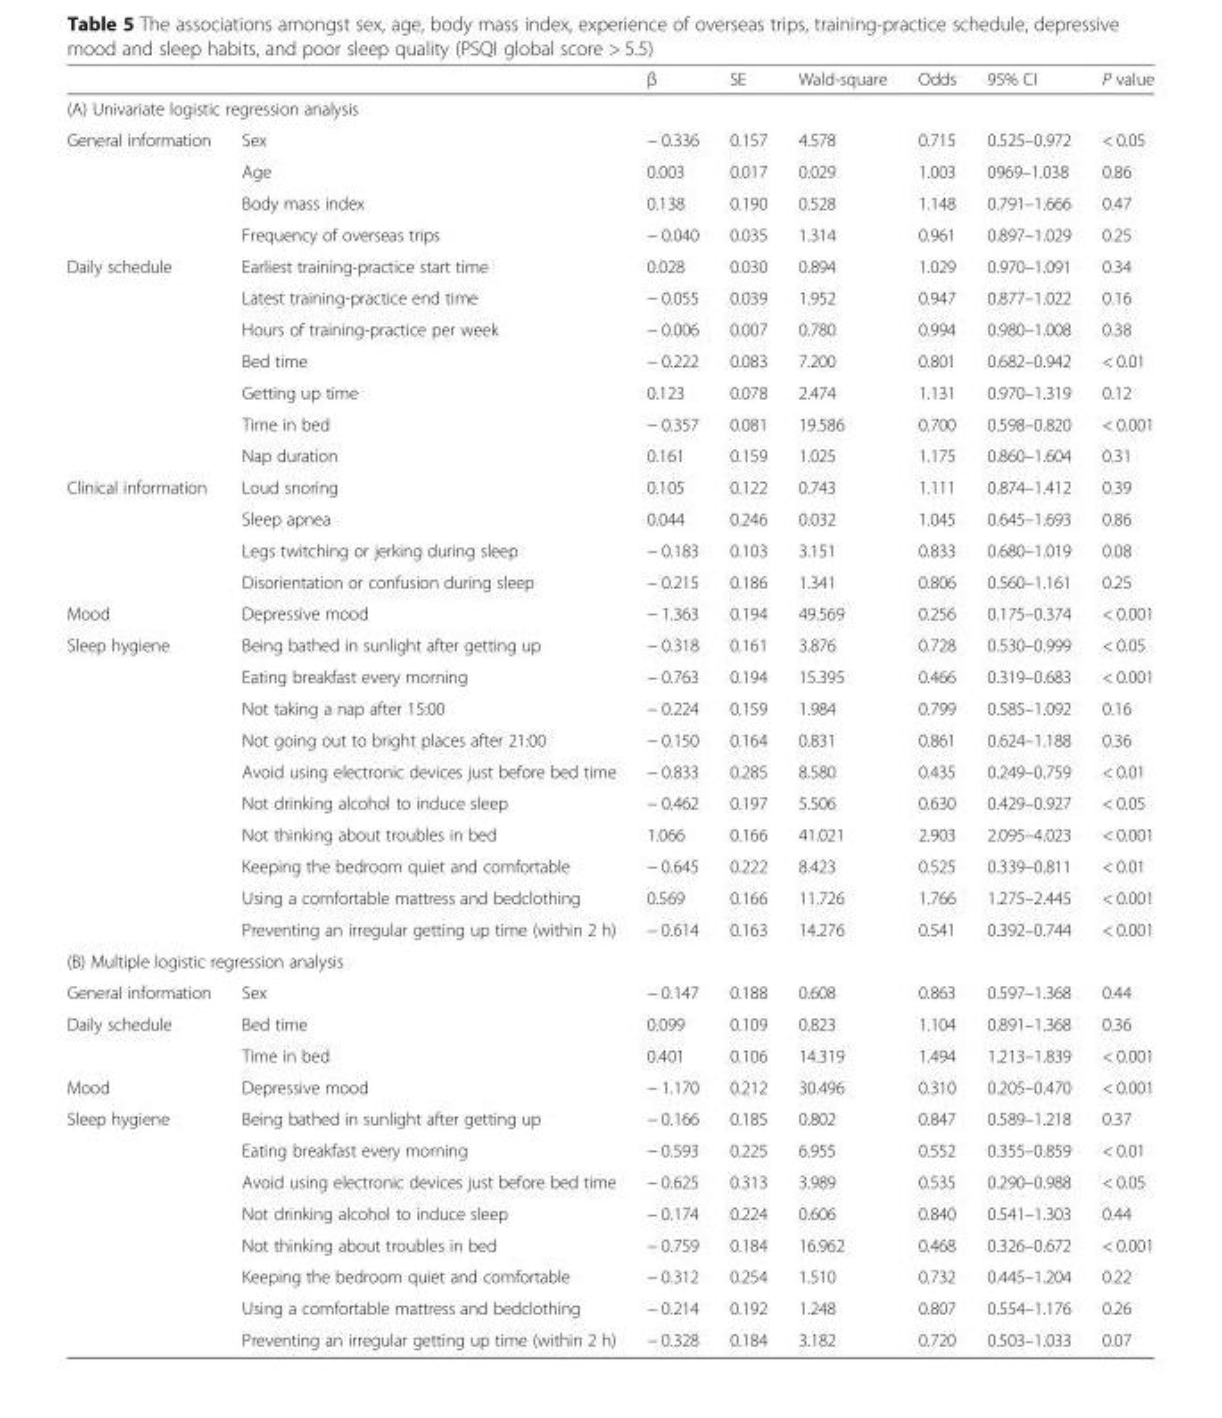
<table><thead><tr><td></td><td></td><td>β</td><td>SE</td><td>Wald-square</td><td>Odds</td><td>95% CI</td><td>P value</td></tr></thead><tbody><tr><td colspan="8">(A) Univariate logistic regression analysis</td></tr><tr><td rowspan="4">General information</td><td>Sex</td><td>− 0.336</td><td>0.157</td><td>4.578</td><td>0.715</td><td>0.525–0.972</td><td>&lt; 0.05</td></tr><tr><td>Age</td><td>0.003</td><td>0.017</td><td>0.029</td><td>1.003</td><td>0969–1.038</td><td>0.86</td></tr><tr><td>Body mass index</td><td>0.138</td><td>0.190</td><td>0.528</td><td>1.148</td><td>0.791–1.666</td><td>0.47</td></tr><tr><td>Frequency of overseas trips</td><td>− 0.040</td><td>0.035</td><td>1.314</td><td>0.961</td><td>0.897–1.029</td><td>0.25</td></tr><tr><td rowspan="7">Daily schedule</td><td>Earliest training-practice start time</td><td>0.028</td><td>0.030</td><td>0.894</td><td>1.029</td><td>0.970–1.091</td><td>0.34</td></tr><tr><td>Latest training-practice end time</td><td>− 0.055</td><td>0.039</td><td>1.952</td><td>0.947</td><td>0.877–1.022</td><td>0.16</td></tr><tr><td>Hours of training-practice per week</td><td>− 0.006</td><td>0.007</td><td>0.780</td><td>0.994</td><td>0.980–1.008</td><td>0.38</td></tr><tr><td>Bed time</td><td>− 0.222</td><td>0.083</td><td>7.200</td><td>0.801</td><td>0.682–0.942</td><td>&lt; 0.01</td></tr><tr><td>Getting up time</td><td>0.123</td><td>0.078</td><td>2.474</td><td>1.131</td><td>0.970–1.319</td><td>0.12</td></tr><tr><td>Time in bed</td><td>− 0.357</td><td>0.081</td><td>19.586</td><td>0.700</td><td>0.598–0.820</td><td>&lt; 0.001</td></tr><tr><td>Nap duration</td><td>0.161</td><td>0.159</td><td>1.025</td><td>1.175</td><td>0.860–1.604</td><td>0.31</td></tr><tr><td rowspan="4">Clinical information</td><td>Loud snoring</td><td>0.105</td><td>0.122</td><td>0.743</td><td>1.111</td><td>0.874–1.412</td><td>0.39</td></tr><tr><td>Sleep apnea</td><td>0.044</td><td>0.246</td><td>0.032</td><td>1.045</td><td>0.645–1.693</td><td>0.86</td></tr><tr><td>Legs twitching or jerking during sleep</td><td>− 0.183</td><td>0.103</td><td>3.151</td><td>0.833</td><td>0.680–1.019</td><td>0.08</td></tr><tr><td>Disorientation or confusion during sleep</td><td>− 0.215</td><td>0.186</td><td>1.341</td><td>0.806</td><td>0.560–1.161</td><td>0.25</td></tr><tr><td>Mood</td><td>Depressive mood</td><td>− 1.363</td><td>0.194</td><td>49.569</td><td>0.256</td><td>0.175–0.374</td><td>&lt; 0.001</td></tr><tr><td rowspan="10">Sleep hygiene</td><td>Being bathed in sunlight after getting up</td><td>− 0.318</td><td>0.161</td><td>3.876</td><td>0.728</td><td>0.530–0.999</td><td>&lt; 0.05</td></tr><tr><td>Eating breakfast every morning</td><td>− 0.763</td><td>0.194</td><td>15.395</td><td>0.466</td><td>0.319–0.683</td><td>&lt; 0.001</td></tr><tr><td>Not taking a nap after 15:00</td><td>− 0.224</td><td>0.159</td><td>1.984</td><td>0.799</td><td>0.585–1.092</td><td>0.16</td></tr><tr><td>Not going out to bright places after 21:00</td><td>− 0.150</td><td>0.164</td><td>0.831</td><td>0.861</td><td>0.624–1.188</td><td>0.36</td></tr><tr><td>Avoid using electronic devices just before bed time</td><td>− 0.833</td><td>0.285</td><td>8.580</td><td>0.435</td><td>0.249–0.759</td><td>&lt; 0.01</td></tr><tr><td>Not drinking alcohol to induce sleep</td><td>− 0.462</td><td>0.197</td><td>5.506</td><td>0.630</td><td>0.429–0.927</td><td>&lt; 0.05</td></tr><tr><td>Not thinking about troubles in bed</td><td>1.066</td><td>0.166</td><td>41.021</td><td>2.903</td><td>2.095–4.023</td><td>&lt; 0.001</td></tr><tr><td>Keeping the bedroom quiet and comfortable</td><td>− 0.645</td><td>0.222</td><td>8.423</td><td>0.525</td><td>0.339–0.811</td><td>&lt; 0.01</td></tr><tr><td>Using a comfortable mattress and bedclothing</td><td>0.569</td><td>0.166</td><td>11.726</td><td>1.766</td><td>1.275–2.445</td><td>&lt; 0.001</td></tr><tr><td>Preventing an irregular getting up time (within 2 h)</td><td>− 0.614</td><td>0.163</td><td>14.276</td><td>0.541</td><td>0.392–0.744</td><td>&lt; 0.001</td></tr><tr><td colspan="8">(B) Multiple logistic regression analysis</td></tr><tr><td>General information</td><td>Sex</td><td>− 0.147</td><td>0.188</td><td>0.608</td><td>0.863</td><td>0.597–1.368</td><td>0.44</td></tr><tr><td rowspan="2">Daily schedule</td><td>Bed time</td><td>0.099</td><td>0.109</td><td>0.823</td><td>1.104</td><td>0.891–1.368</td><td>0.36</td></tr><tr><td>Time in bed</td><td>0.401</td><td>0.106</td><td>14.319</td><td>1.494</td><td>1.213–1.839</td><td>&lt; 0.001</td></tr><tr><td>Mood</td><td>Depressive mood</td><td>− 1.170</td><td>0.212</td><td>30.496</td><td>0.310</td><td>0.205–0.470</td><td>&lt; 0.001</td></tr><tr><td rowspan="8">Sleep hygiene</td><td>Being bathed in sunlight after getting up</td><td>− 0.166</td><td>0.185</td><td>0.802</td><td>0.847</td><td>0.589–1.218</td><td>0.37</td></tr><tr><td>Eating breakfast every morning</td><td>− 0.593</td><td>0.225</td><td>6.955</td><td>0.552</td><td>0.355–0.859</td><td>&lt; 0.01</td></tr><tr><td>Avoid using electronic devices just before bed time</td><td>− 0.625</td><td>0.313</td><td>3.989</td><td>0.535</td><td>0.290–0.988</td><td>&lt; 0.05</td></tr><tr><td>Not drinking alcohol to induce sleep</td><td>− 0.174</td><td>0.224</td><td>0.606</td><td>0.840</td><td>0.541–1.303</td><td>0.44</td></tr><tr><td>Not thinking about troubles in bed</td><td>− 0.759</td><td>0.184</td><td>16.962</td><td>0.468</td><td>0.326–0.672</td><td>&lt; 0.001</td></tr><tr><td>Keeping the bedroom quiet and comfortable</td><td>− 0.312</td><td>0.254</td><td>1.510</td><td>0.732</td><td>0.445–1.204</td><td>0.22</td></tr><tr><td>Using a comfortable mattress and bedclothing</td><td>− 0.214</td><td>0.192</td><td>1.248</td><td>0.807</td><td>0.554–1.176</td><td>0.26</td></tr><tr><td>Preventing an irregular getting up time (within 2 h)</td><td>− 0.328</td><td>0.184</td><td>3.182</td><td>0.720</td><td>0.503–1.033</td><td>0.07</td></tr></tbody></table>